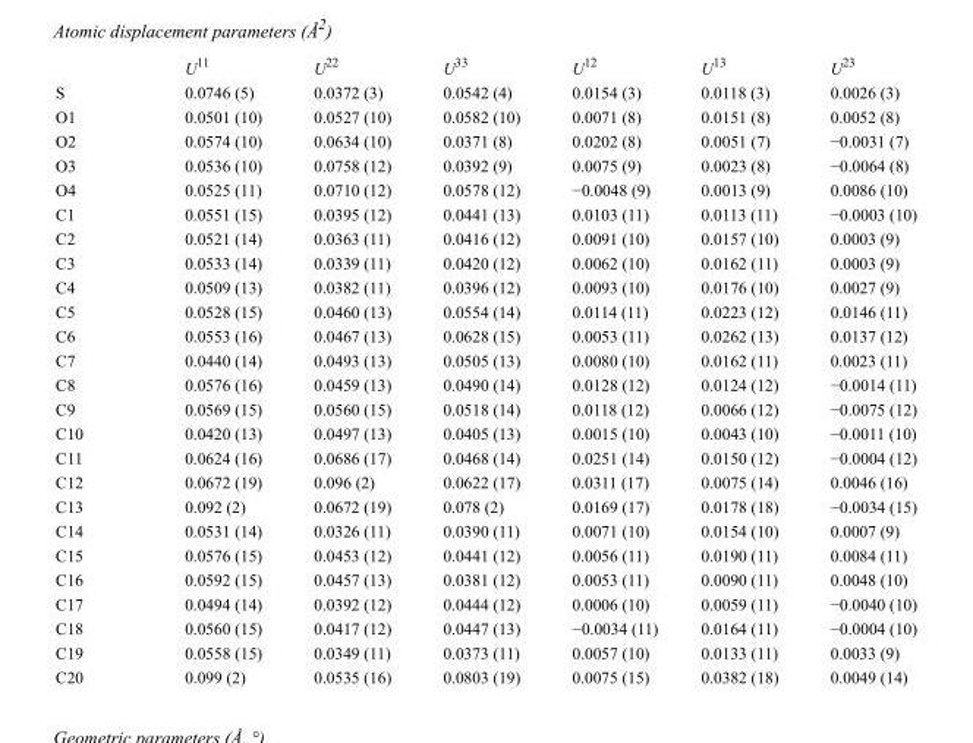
<table><thead><tr><td></td><td>U<sup>11</sup></td><td>U<sup>22</sup></td><td>U<sup>33</sup></td><td>U<sup>12</sup></td><td>U<sup>13</sup></td><td>U<sup>23</sup></td></tr></thead><tbody><tr><td>S</td><td>0.0746 (5)</td><td>0.0372 (3)</td><td>0.0542 (4)</td><td>0.0154 (3)</td><td>0.0118 (3)</td><td>0.0026 (3)</td></tr><tr><td>O1</td><td>0.0501 (10)</td><td>0.0527 (10)</td><td>0.0582 (10)</td><td>0.0071 (8)</td><td>0.0151 (8)</td><td>0.0052 (8)</td></tr><tr><td>O2</td><td>0.0574 (10)</td><td>0.0634 (10)</td><td>0.0371 (8)</td><td>0.0202 (8)</td><td>0.0051 (7)</td><td>−0.0031 (7)</td></tr><tr><td>O3</td><td>0.0536 (10)</td><td>0.0758 (12)</td><td>0.0392 (9)</td><td>0.0075 (9)</td><td>0.0023 (8)</td><td>−0.0064 (8)</td></tr><tr><td>O4</td><td>0.0525 (11)</td><td>0.0710 (12)</td><td>0.0578 (12)</td><td>−0.0048 (9)</td><td>0.0013 (9)</td><td>0.0086 (10)</td></tr><tr><td>C1</td><td>0.0551 (15)</td><td>0.0395 (12)</td><td>0.0441 (13)</td><td>0.0103 (11)</td><td>0.0113 (11)</td><td>−0.0003 (10)</td></tr><tr><td>C2</td><td>0.0521 (14)</td><td>0.0363 (11)</td><td>0.0416 (12)</td><td>0.0091 (10)</td><td>0.0157 (10)</td><td>0.0003 (9)</td></tr><tr><td>C3</td><td>0.0533 (14)</td><td>0.0339 (11)</td><td>0.0420 (12)</td><td>0.0062 (10)</td><td>0.0162 (11)</td><td>0.0003 (9)</td></tr><tr><td>C4</td><td>0.0509 (13)</td><td>0.0382 (11)</td><td>0.0396 (12)</td><td>0.0093 (10)</td><td>0.0176 (10)</td><td>0.0027 (9)</td></tr><tr><td>C5</td><td>0.0528 (15)</td><td>0.0460 (13)</td><td>0.0554 (14)</td><td>0.0114 (11)</td><td>0.0223 (12)</td><td>0.0146 (11)</td></tr><tr><td>C6</td><td>0.0553 (16)</td><td>0.0467 (13)</td><td>0.0628 (15)</td><td>0.0053 (11)</td><td>0.0262 (13)</td><td>0.0137 (12)</td></tr><tr><td>C7</td><td>0.0440 (14)</td><td>0.0493 (13)</td><td>0.0505 (13)</td><td>0.0080 (10)</td><td>0.0162 (11)</td><td>0.0023 (11)</td></tr><tr><td>C8</td><td>0.0576 (16)</td><td>0.0459 (13)</td><td>0.0490 (14)</td><td>0.0128 (12)</td><td>0.0124 (12)</td><td>−0.0014 (11)</td></tr><tr><td>C9</td><td>0.0569 (15)</td><td>0.0560 (15)</td><td>0.0518 (14)</td><td>0.0118 (12)</td><td>0.0066 (12)</td><td>−0.0075 (12)</td></tr><tr><td>C10</td><td>0.0420 (13)</td><td>0.0497 (13)</td><td>0.0405 (13)</td><td>0.0015 (10)</td><td>0.0043 (10)</td><td>−0.0011 (10)</td></tr><tr><td>C11</td><td>0.0624 (16)</td><td>0.0686 (17)</td><td>0.0468 (14)</td><td>0.0251 (14)</td><td>0.0150 (12)</td><td>−0.0004 (12)</td></tr><tr><td>C12</td><td>0.0672 (19)</td><td>0.096 (2)</td><td>0.0622 (17)</td><td>0.0311 (17)</td><td>0.0075 (14)</td><td>0.0046 (16)</td></tr><tr><td>C13</td><td>0.092 (2)</td><td>0.0672 (19)</td><td>0.078 (2)</td><td>0.0169 (17)</td><td>0.0178 (18)</td><td>−0.0034 (15)</td></tr><tr><td>C14</td><td>0.0531 (14)</td><td>0.0326 (11)</td><td>0.0390 (11)</td><td>0.0071 (10)</td><td>0.0154 (10)</td><td>0.0007 (9)</td></tr><tr><td>C15</td><td>0.0576 (15)</td><td>0.0453 (12)</td><td>0.0441 (12)</td><td>0.0056 (11)</td><td>0.0190 (11)</td><td>0.0084 (11)</td></tr><tr><td>C16</td><td>0.0592 (15)</td><td>0.0457 (13)</td><td>0.0381 (12)</td><td>0.0053 (11)</td><td>0.0090 (11)</td><td>0.0048 (10)</td></tr><tr><td>C17</td><td>0.0494 (14)</td><td>0.0392 (12)</td><td>0.0444 (12)</td><td>0.0006 (10)</td><td>0.0059 (11)</td><td>−0.0040 (10)</td></tr><tr><td>C18</td><td>0.0560 (15)</td><td>0.0417 (12)</td><td>0.0447 (13)</td><td>−0.0034 (11)</td><td>0.0164 (11)</td><td>−0.0004 (10)</td></tr><tr><td>C19</td><td>0.0558 (15)</td><td>0.0349 (11)</td><td>0.0373 (11)</td><td>0.0057 (10)</td><td>0.0133 (11)</td><td>0.0033 (9)</td></tr><tr><td>C20</td><td>0.099 (2)</td><td>0.0535 (16)</td><td>0.0803 (19)</td><td>0.0075 (15)</td><td>0.0382 (18)</td><td>0.0049 (14)</td></tr></tbody></table>